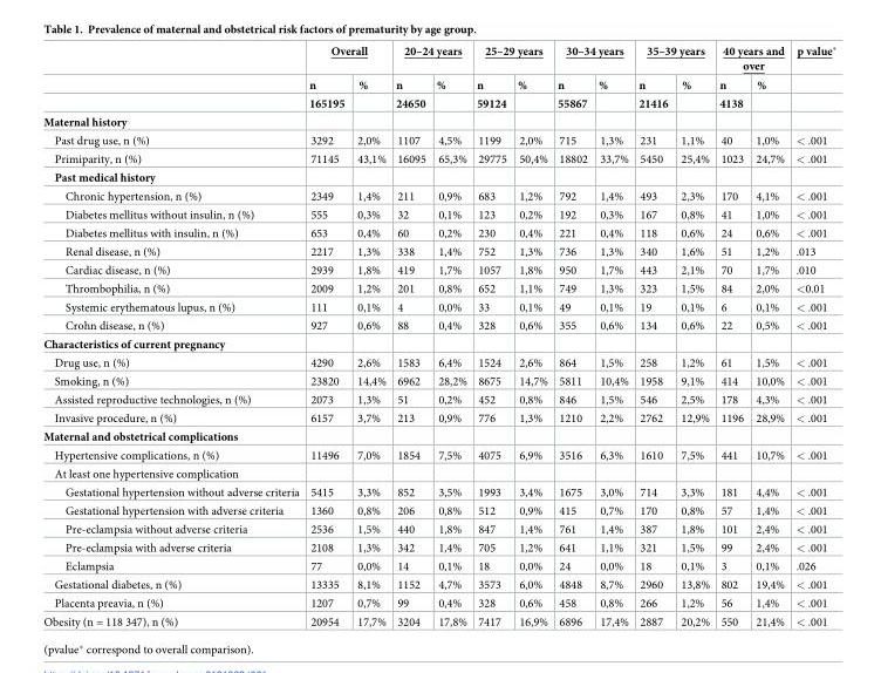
<table><thead><tr><td rowspan="3"></td><td colspan="2">Overall</td><td colspan="2">20–24 years</td><td colspan="2">25–29 years</td><td colspan="2">30–34 years</td><td colspan="2">35–39 years</td><td colspan="2">40 years and over</td><td rowspan="3">p value*</td></tr><tr><td rowspan="2">n 165195</td><td rowspan="2">%</td><td rowspan="2">n 24650</td><td rowspan="2">%</td><td rowspan="2">n 59124</td><td rowspan="2">%</td><td rowspan="2">n 55867</td><td rowspan="2">%</td><td rowspan="2">n 21416</td><td rowspan="2">%</td><td rowspan="2">n 4138</td><td rowspan="2">%</td></tr><tr></tr></thead><tbody><tr><td colspan="14">Maternal history</td></tr><tr><td>Past drug use, n (%)</td><td>3292</td><td>2,0%</td><td>1107</td><td>4,5%</td><td>1199</td><td>2,0%</td><td>715</td><td>1,3%</td><td>231</td><td>1,1%</td><td>40</td><td>1,0%</td><td>&lt; .001</td></tr><tr><td>Primiparity, n (%)</td><td>71145</td><td>43,1%</td><td>16095</td><td>65,3%</td><td>29775</td><td>50,4%</td><td>18802</td><td>33,7%</td><td>5450</td><td>25,4%</td><td>1023</td><td>24,7%</td><td>&lt; .001</td></tr><tr><td colspan="14">Past medical history</td></tr><tr><td>Chronic hypertension, n (%)</td><td>2349</td><td>1,4%</td><td>211</td><td>0,9%</td><td>683</td><td>1,2%</td><td>792</td><td>1,4%</td><td>493</td><td>2,3%</td><td>170</td><td>4,1%</td><td>&lt; .001</td></tr><tr><td>Diabetes mellitus without insulin, n (%)</td><td>555</td><td>0,3%</td><td>32</td><td>0,1%</td><td>123</td><td>0,2%</td><td>192</td><td>0,3%</td><td>167</td><td>0,8%</td><td>41</td><td>1,0%</td><td>&lt; .001</td></tr><tr><td>Diabetes mellitus with insulin, n (%)</td><td>653</td><td>0,4%</td><td>60</td><td>0,2%</td><td>230</td><td>0,4%</td><td>221</td><td>0,4%</td><td>118</td><td>0,6%</td><td>24</td><td>0,6%</td><td>&lt; .001</td></tr><tr><td>Renal disease, n (%)</td><td>2217</td><td>1,3%</td><td>338</td><td>1,4%</td><td>752</td><td>1,3%</td><td>736</td><td>1,3%</td><td>340</td><td>1,6%</td><td>51</td><td>1,2%</td><td>.013</td></tr><tr><td>Cardiac disease, n (%)</td><td>2939</td><td>1,8%</td><td>419</td><td>1,7%</td><td>1057</td><td>1,8%</td><td>950</td><td>1,7%</td><td>443</td><td>2,1%</td><td>70</td><td>1,7%</td><td>.010</td></tr><tr><td>Thrombophilia, n (%)</td><td>2009</td><td>1,2%</td><td>201</td><td>0,8%</td><td>652</td><td>1,1%</td><td>749</td><td>1,3%</td><td>323</td><td>1,5%</td><td>84</td><td>2,0%</td><td>&lt;0.01</td></tr><tr><td>Systemic erythematous lupus, n (%)</td><td>111</td><td>0,1%</td><td>4</td><td>0,0%</td><td>33</td><td>0,1%</td><td>49</td><td>0,1%</td><td>19</td><td>0,1%</td><td>6</td><td>0,1%</td><td>&lt; .001</td></tr><tr><td>Crohn disease, n (%)</td><td>927</td><td>0,6%</td><td>88</td><td>0,4%</td><td>328</td><td>0,6%</td><td>355</td><td>0,6%</td><td>134</td><td>0,6%</td><td>22</td><td>0,5%</td><td>&lt; .001</td></tr><tr><td colspan="14">Characteristics of current pregnancy</td></tr><tr><td>Drug use, n (%)</td><td>4290</td><td>2,6%</td><td>1583</td><td>6,4%</td><td>1524</td><td>2,6%</td><td>864</td><td>1,5%</td><td>258</td><td>1,2%</td><td>61</td><td>1,5%</td><td>&lt; .001</td></tr><tr><td>Smoking, n (%)</td><td>23820</td><td>14,4%</td><td>6962</td><td>28,2%</td><td>8675</td><td>14,7%</td><td>5811</td><td>10,4%</td><td>1958</td><td>9,1%</td><td>414</td><td>10,0%</td><td>&lt; .001</td></tr><tr><td>Assisted reproductive technologies, n (%)</td><td>2073</td><td>1,3%</td><td>51</td><td>0,2%</td><td>452</td><td>0,8%</td><td>846</td><td>1,5%</td><td>546</td><td>2,5%</td><td>178</td><td>4,3%</td><td>&lt; .001</td></tr><tr><td>Invasive procedure, n (%)</td><td>6157</td><td>3,7%</td><td>213</td><td>0,9%</td><td>776</td><td>1,3%</td><td>1210</td><td>2,2%</td><td>2762</td><td>12,9%</td><td>1196</td><td>28,9%</td><td>&lt; .001</td></tr><tr><td colspan="14">Maternal and obstetrical complications</td></tr><tr><td>Hypertensive complications, n (%)</td><td>11496</td><td>7,0%</td><td>1854</td><td>7,5%</td><td>4075</td><td>6,9%</td><td>3516</td><td>6,3%</td><td>1610</td><td>7,5%</td><td>441</td><td>10,7%</td><td>&lt; .001</td></tr><tr><td colspan="14">At least one hypertensive complication</td></tr><tr><td>Gestational hypertension without adverse criteria</td><td>5415</td><td>3,3%</td><td>852</td><td>3,5%</td><td>1993</td><td>3,4%</td><td>1675</td><td>3,0%</td><td>714</td><td>3,3%</td><td>181</td><td>4,4%</td><td>&lt; .001</td></tr><tr><td>Gestational hypertension with adverse criteria</td><td>1360</td><td>0,8%</td><td>206</td><td>0,8%</td><td>512</td><td>0,9%</td><td>415</td><td>0,7%</td><td>170</td><td>0,8%</td><td>57</td><td>1,4%</td><td>&lt; .001</td></tr><tr><td>Pre-eclampsia without adverse criteria</td><td>2536</td><td>1,5%</td><td>440</td><td>1,8%</td><td>847</td><td>1,4%</td><td>761</td><td>1,4%</td><td>387</td><td>1,8%</td><td>101</td><td>2,4%</td><td>&lt; .001</td></tr><tr><td>Pre-eclampsia with adverse criteria</td><td>2108</td><td>1,3%</td><td>342</td><td>1,4%</td><td>705</td><td>1,2%</td><td>641</td><td>1,1%</td><td>321</td><td>1,5%</td><td>99</td><td>2,4%</td><td>&lt; .001</td></tr><tr><td>Eclampsia</td><td>77</td><td>0,0%</td><td>14</td><td>0,1%</td><td>18</td><td>0,0%</td><td>24</td><td>0,0%</td><td>18</td><td>0,1%</td><td>3</td><td>0,1%</td><td>.026</td></tr><tr><td>Gestational diabetes, n (%)</td><td>13335</td><td>8,1%</td><td>1152</td><td>4,7%</td><td>3573</td><td>6,0%</td><td>4848</td><td>8,7%</td><td>2960</td><td>13,8%</td><td>802</td><td>19,4%</td><td>&lt; .001</td></tr><tr><td>Placenta preavia, n (%)</td><td>1207</td><td>0,7%</td><td>99</td><td>0,4%</td><td>328</td><td>0,6%</td><td>458</td><td>0,8%</td><td>266</td><td>1,2%</td><td>56</td><td>1,4%</td><td>&lt; .001</td></tr><tr><td>Obesity (n = 118 347), n (%)</td><td>20954</td><td>17,7%</td><td>3204</td><td>17,8%</td><td>7417</td><td>16,9%</td><td>6896</td><td>17,4%</td><td>2887</td><td>20,2%</td><td>550</td><td>21,4%</td><td>&lt; .001</td></tr></tbody></table>